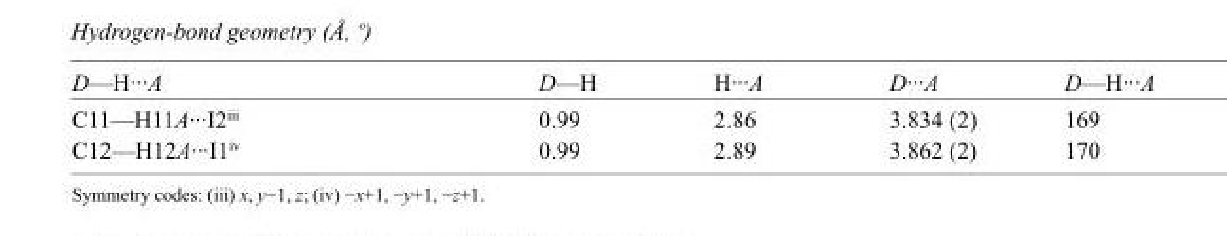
<table><tbody><tr><td>D—H···A</td><td>D—H</td><td>H···A</td><td>D···A</td><td>D—H···A</td></tr><tr><td>C11—H11A···I2<sup>iii</sup></td><td>0.99</td><td>2.86</td><td>3.834 (2)</td><td>169</td></tr><tr><td>C12—H12A···I1<sup>iv</sup></td><td>0.99</td><td>2.89</td><td>3.862 (2)</td><td>170</td></tr></tbody></table>